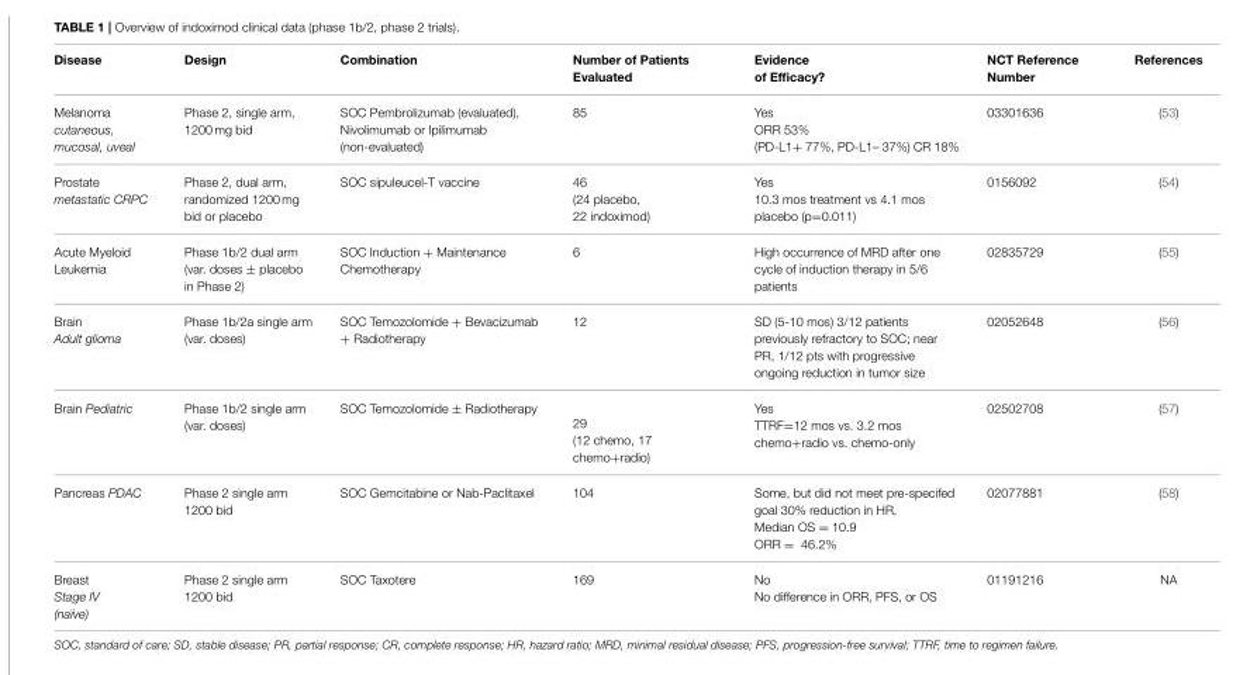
<table><thead><tr><td>Disease</td><td>Design</td><td>Combination</td><td>Number of Patients Evaluated</td><td>Evidence of Efficacy?</td><td>NCT Reference Number</td><td>References</td></tr></thead><tbody><tr><td>Melanoma cutaneous, mucosal, uveal</td><td>Phase 2, single arm, 1200 mg bid</td><td>SOC Pembrolizumab (evaluated), Nivolimumab or Ipilimumab (non-evaluated)</td><td>85</td><td>Yes ORR 53% (PD-L1+ 77%, PD-L1– 37%) CR 18%</td><td>03301636</td><td>(53)</td></tr><tr><td>Prostate metastatic CRPC</td><td>Phase 2, dual arm, randomized 1200 mg bid or placebo</td><td>SOC sipuleucel-T vaccine</td><td>46 (24 placebo, 22 indoximod)</td><td>Yes 10.3 mos treatment vs 4.1 mos placebo (p=0.011)</td><td>0156092</td><td>(54)</td></tr><tr><td>Acute Myeloid Leukemia</td><td>Phase 1b/2 dual arm (var. doses ± placebo in Phase 2)</td><td>SOC Induction + Maintenance Chemotherapy</td><td>6</td><td>High occurrence of MRD after one cycle of induction therapy in 5/6 patients</td><td>02835729</td><td>(55)</td></tr><tr><td>Brain Adult glioma</td><td>Phase 1b/2a single arm (var. doses)</td><td>SOC Temozolomide + Bevacizumab + Radiotherapy</td><td>12</td><td>SD (5-10 mos) 3/12 patients previously refractory to SOC; near PR, 1/12 pts with progressive ongoing reduction in tumor size</td><td>02052648</td><td>(56)</td></tr><tr><td>Brain Pediatric</td><td>Phase 1b/2 single arm (var. doses)</td><td>SOC Temozolomide ± Radiotherapy</td><td>29 (12 chemo, 17 chemo+radio)</td><td>Yes TTRF=12 mos vs. 3.2 mos chemo+radio vs. chemo-only</td><td>02502708</td><td>(57)</td></tr><tr><td>Pancreas PDAC</td><td>Phase 2 single arm 1200 bid</td><td>SOC Gemcitabine or Nab-Paclitaxel</td><td>104</td><td>Some, but did not meet pre-specifed goal 30% reduction in HR. Median OS = 10.9 ORR = 46.2%</td><td>02077881</td><td>(58)</td></tr><tr><td>Breast Stage IV (naïve)</td><td>Phase 2 single arm 1200 bid</td><td>SOC Taxotere</td><td>169</td><td>No No difference in ORR, PFS, or OS</td><td>01191216</td><td>NA</td></tr></tbody></table>